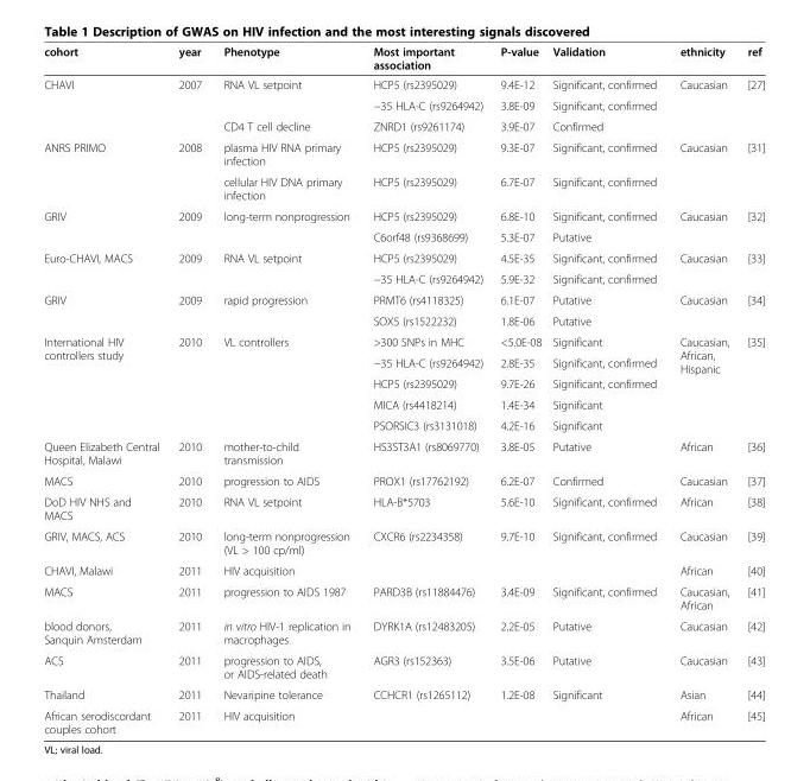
<table><thead><tr><td>cohort</td><td>year</td><td>Phenotype</td><td>Most important association</td><td>P-value</td><td>Validation</td><td>ethnicity</td><td>ref</td></tr></thead><tbody><tr><td rowspan="3">CHAVI</td><td>2007</td><td>RNA VL setpoint</td><td>HCP5 (rs2395029)</td><td>9.4E-12</td><td>Significant, confirmed</td><td>Caucasian</td><td>[27]</td></tr><tr><td></td><td></td><td>−35 HLA-C (rs9264942)</td><td>3.8E-09</td><td>Significant, confirmed</td><td></td><td></td></tr><tr><td></td><td>CD4 T cell decline</td><td>ZNRD1 (rs9261174)</td><td>3.9E-07</td><td>Confirmed</td><td></td><td></td></tr><tr><td rowspan="2">ANRS PRIMO</td><td>2008</td><td>plasma HIV RNA primary infection</td><td>HCP5 (rs2395029)</td><td>9.3E-07</td><td>Significant, confirmed</td><td>Caucasian</td><td>[31]</td></tr><tr><td></td><td>cellular HIV DNA primary infection</td><td>HCP5 (rs2395029)</td><td>6.7E-07</td><td>Significant, confirmed</td><td></td><td></td></tr><tr><td rowspan="2">GRIV</td><td>2009</td><td>long-term nonprogression</td><td>HCP5 (rs2395029)</td><td>6.8E-10</td><td>Significant, confirmed</td><td>Caucasian</td><td>[32]</td></tr><tr><td></td><td></td><td>C6orf48 (rs9368699)</td><td>5.3E-07</td><td>Putative</td><td></td><td></td></tr><tr><td rowspan="2">Euro-CHAVI, MACS</td><td>2009</td><td>RNA VL setpoint</td><td>HCP5 (rs2395029)</td><td>4.5E-35</td><td>Significant, confirmed</td><td>Caucasian</td><td>[33]</td></tr><tr><td></td><td></td><td>−35 HLA-C (rs9264942)</td><td>5.9E-32</td><td>Significant, confirmed</td><td></td><td></td></tr><tr><td rowspan="2">GRIV</td><td>2009</td><td>rapid progression</td><td>PRMT6 (rs4118325)</td><td>6.1E-07</td><td>Putative</td><td>Caucasian</td><td>[34]</td></tr><tr><td></td><td></td><td>SOX5 (rs1522232)</td><td>1.8E-06</td><td>Putative</td><td></td><td></td></tr><tr><td rowspan="5">International HIV controllers study</td><td>2010</td><td>VL controllers</td><td>&gt;300 SNPs in MHC</td><td>&lt;5.0E-08</td><td>Significant</td><td rowspan="5">Caucasian, African, Hispanic</td><td>[35]</td></tr><tr><td></td><td></td><td>−35 HLA-C (rs9264942)</td><td>2.8E-35</td><td>Significant, confirmed</td><td></td></tr><tr><td></td><td></td><td>HCP5 (rs2395029)</td><td>9.7E-26</td><td>Significant, confirmed</td><td></td></tr><tr><td></td><td></td><td>MICA (rs4418214)</td><td>1.4E-34</td><td>Significant</td><td></td></tr><tr><td></td><td></td><td>PSORSIC3 (rs3131018)</td><td>4.2E-16</td><td>Significant</td><td></td></tr><tr><td>Queen Elizabeth Central Hospital, Malawi</td><td>2010</td><td>mother-to-child transmission</td><td>HS3ST3A1 (rs8069770)</td><td>3.8E-05</td><td>Putative</td><td>African</td><td>[36]</td></tr><tr><td>MACS</td><td>2010</td><td>progression to AIDS</td><td>PROX1 (rs17762192)</td><td>6.2E-07</td><td>Confirmed</td><td>Caucasian</td><td>[37]</td></tr><tr><td>DoD HIV NHS and MACS</td><td>2010</td><td>RNA VL setpoint</td><td>HLA-B*5703</td><td>5.6E-10</td><td>Significant, confirmed</td><td>African</td><td>[38]</td></tr><tr><td>GRIV, MACS, ACS</td><td>2010</td><td>long-term nonprogression (VL &gt; 100 cp/ml)</td><td>CXCR6 (rs2234358)</td><td>9.7E-10</td><td>Significant, confirmed</td><td>Caucasian</td><td>[39]</td></tr><tr><td>CHAVI, Malawi</td><td>2011</td><td>HIV acquisition</td><td></td><td></td><td></td><td>African</td><td>[40]</td></tr><tr><td>MACS</td><td>2011</td><td>progression to AIDS 1987</td><td>PARD3B (rs11884476)</td><td>3.4E-09</td><td>Significant, confirmed</td><td>Caucasian, African</td><td>[41]</td></tr><tr><td>blood donors, Sanquin Amsterdam</td><td>2011</td><td>in vitro HIV-1 replication in macrophages</td><td>DYRK1A (rs12483205)</td><td>2.2E-05</td><td>Putative</td><td>Caucasian</td><td>[42]</td></tr><tr><td>ACS</td><td>2011</td><td>progression to AIDS, or AIDS-related death</td><td>AGR3 (rs152363)</td><td>3.5E-06</td><td>Putative</td><td>Caucasian</td><td>[43]</td></tr><tr><td>Thailand</td><td>2011</td><td>Nevaripine tolerance</td><td>CCHCR1 (rs1265112)</td><td>1.2E-08</td><td>Significant</td><td>Asian</td><td>[44]</td></tr><tr><td>African serodiscordant couples cohort</td><td>2011</td><td>HIV acquisition</td><td></td><td></td><td></td><td>African</td><td>[45]</td></tr></tbody></table>